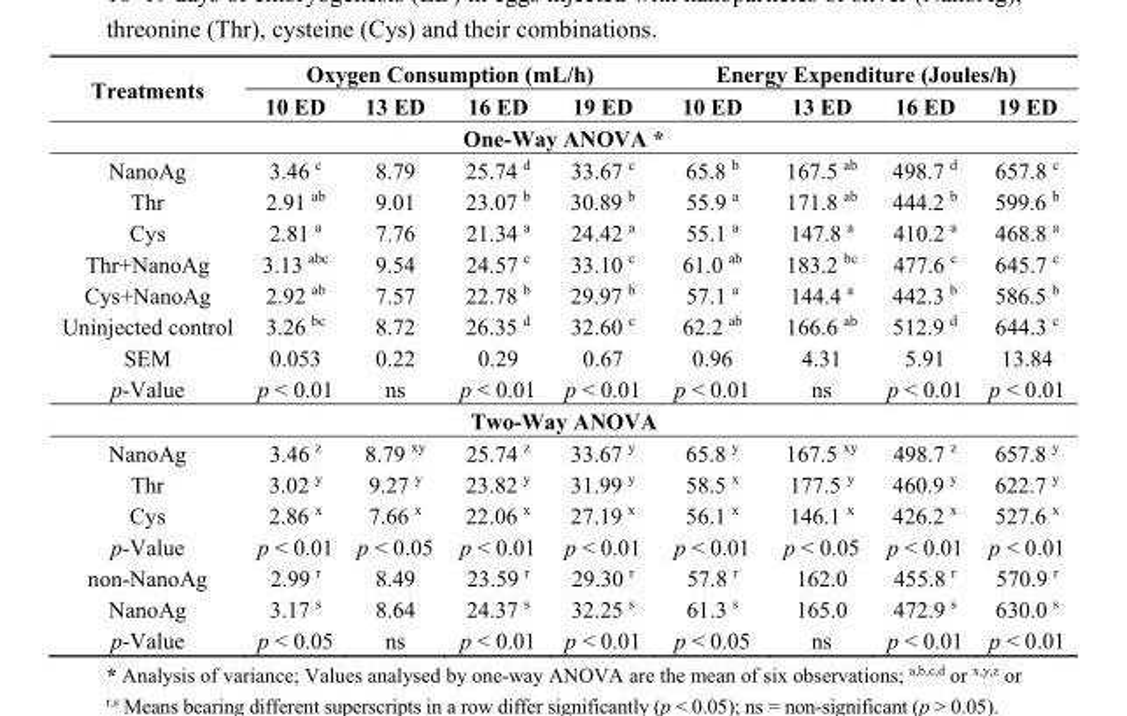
<table><thead><tr><td rowspan="2">Treatments</td><td colspan="4">Oxygen Consumption (mL/h)</td><td colspan="4">Energy Expenditure (Joules/h)</td></tr><tr><td>10 ED</td><td>13 ED</td><td>16 ED</td><td>19 ED</td><td>10 ED</td><td>13 ED</td><td>16 ED</td><td>19 ED</td></tr></thead><tbody><tr><td colspan="9">One-Way ANOVA *</td></tr><tr><td>NanoAg</td><td>3.46 <sup>c</sup></td><td>8.79</td><td>25.74 <sup>d</sup></td><td>33.67 <sup>c</sup></td><td>65.8 <sup>b</sup></td><td>167.5 <sup>ab</sup></td><td>498.7 <sup>d</sup></td><td>657.8 <sup>c</sup></td></tr><tr><td>Thr</td><td>2.91 <sup>ab</sup></td><td>9.01</td><td>23.07 <sup>b</sup></td><td>30.89 <sup>b</sup></td><td>55.9 <sup>a</sup></td><td>171.8 <sup>ab</sup></td><td>444.2 <sup>b</sup></td><td>599.6 <sup>b</sup></td></tr><tr><td>Cys</td><td>2.81 <sup>a</sup></td><td>7.76</td><td>21.34 <sup>a</sup></td><td>24.42 <sup>a</sup></td><td>55.1 <sup>a</sup></td><td>147.8 <sup>a</sup></td><td>410.2 <sup>a</sup></td><td>468.8 <sup>a</sup></td></tr><tr><td>Thr+NanoAg</td><td>3.13 <sup>abc</sup></td><td>9.54</td><td>24.57 <sup>c</sup></td><td>33.10 <sup>c</sup></td><td>61.0 <sup>ab</sup></td><td>183.2 <sup>bc</sup></td><td>477.6 <sup>c</sup></td><td>645.7 <sup>c</sup></td></tr><tr><td>Cys+NanoAg</td><td>2.92 <sup>ab</sup></td><td>7.57</td><td>22.78 <sup>b</sup></td><td>29.97 <sup>b</sup></td><td>57.1 <sup>a</sup></td><td>144.4 <sup>a</sup></td><td>442.3 <sup>b</sup></td><td>586.5 <sup>b</sup></td></tr><tr><td>Uninjected control</td><td>3.26 <sup>bc</sup></td><td>8.72</td><td>26.35 <sup>d</sup></td><td>32.60 <sup>c</sup></td><td>62.2 <sup>ab</sup></td><td>166.6 <sup>ab</sup></td><td>512.9 <sup>d</sup></td><td>644.3 <sup>c</sup></td></tr><tr><td>SEM</td><td>0.053</td><td>0.22</td><td>0.29</td><td>0.67</td><td>0.96</td><td>4.31</td><td>5.91</td><td>13.84</td></tr><tr><td>p-Value</td><td>p &lt; 0.01</td><td>ns</td><td>p &lt; 0.01</td><td>p &lt; 0.01</td><td>p &lt; 0.01</td><td>ns</td><td>p &lt; 0.01</td><td>p &lt; 0.01</td></tr><tr><td colspan="9">Two-Way ANOVA</td></tr><tr><td>NanoAg</td><td>3.46 <sup>z</sup></td><td>8.79 <sup>xy</sup></td><td>25.74 <sup>z</sup></td><td>33.67 <sup>y</sup></td><td>65.8 <sup>y</sup></td><td>167.5 <sup>xy</sup></td><td>498.7 <sup>z</sup></td><td>657.8 <sup>y</sup></td></tr><tr><td>Thr</td><td>3.02 <sup>y</sup></td><td>9.27 <sup>y</sup></td><td>23.82 <sup>y</sup></td><td>31.99 <sup>y</sup></td><td>58.5 <sup>x</sup></td><td>177.5 <sup>y</sup></td><td>460.9 <sup>y</sup></td><td>622.7 <sup>y</sup></td></tr><tr><td>Cys</td><td>2.86 <sup>x</sup></td><td>7.66 <sup>x</sup></td><td>22.06 <sup>x</sup></td><td>27.19 <sup>x</sup></td><td>56.1 <sup>x</sup></td><td>146.1 <sup>x</sup></td><td>426.2 <sup>x</sup></td><td>527.6 <sup>x</sup></td></tr><tr><td>p-Value</td><td>p &lt; 0.01</td><td>p &lt; 0.05</td><td>p &lt; 0.01</td><td>p &lt; 0.01</td><td>p &lt; 0.01</td><td>p &lt; 0.05</td><td>p &lt; 0.01</td><td>p &lt; 0.01</td></tr><tr><td>non-NanoAg</td><td>2.99 <sup>r</sup></td><td>8.49</td><td>23.59 <sup>r</sup></td><td>29.30 <sup>r</sup></td><td>57.8 <sup>r</sup></td><td>162.0</td><td>455.8 <sup>r</sup></td><td>570.9 <sup>r</sup></td></tr><tr><td>NanoAg</td><td>3.17 <sup>s</sup></td><td>8.64</td><td>24.37 <sup>s</sup></td><td>32.25 <sup>s</sup></td><td>61.3 <sup>s</sup></td><td>165.0</td><td>472.9 <sup>s</sup></td><td>630.0 <sup>s</sup></td></tr><tr><td>p-Value</td><td>p &lt; 0.05</td><td>ns</td><td>p &lt; 0.01</td><td>p &lt; 0.01</td><td>p &lt; 0.05</td><td>ns</td><td>p &lt; 0.01</td><td>p &lt; 0.01</td></tr></tbody></table>